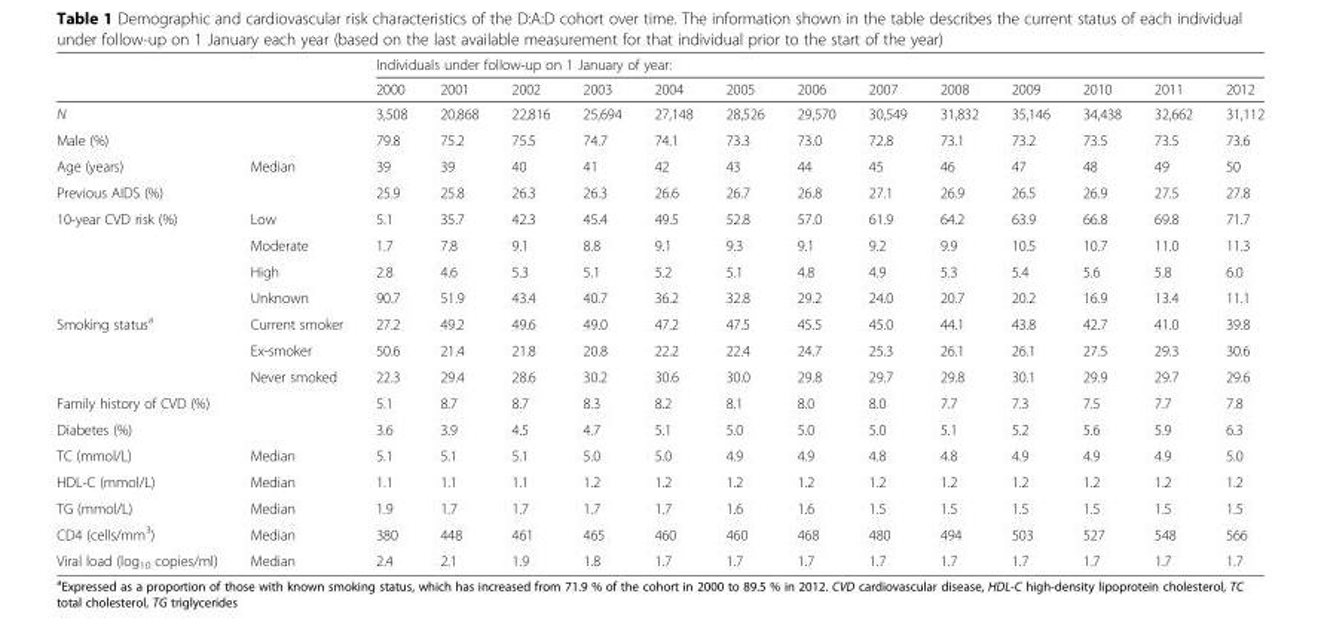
<table><thead><tr><td rowspan="2"></td><td rowspan="2"></td><td colspan="13">Individuals under follow-up on 1 January of year:</td></tr><tr><td>2000</td><td>2001</td><td>2002</td><td>2003</td><td>2004</td><td>2005</td><td>2006</td><td>2007</td><td>2008</td><td>2009</td><td>2010</td><td>2011</td><td>2012</td></tr></thead><tbody><tr><td>N</td><td></td><td>3,508</td><td>20,868</td><td>22,816</td><td>25,694</td><td>27,148</td><td>28,526</td><td>29,570</td><td>30,549</td><td>31,832</td><td>35,146</td><td>34,438</td><td>32,662</td><td>31,112</td></tr><tr><td>Male (%)</td><td></td><td>79.8</td><td>75.2</td><td>75.5</td><td>74.7</td><td>74.1</td><td>73.3</td><td>73.0</td><td>72.8</td><td>73.1</td><td>73.2</td><td>73.5</td><td>73.5</td><td>73.6</td></tr><tr><td>Age (years)</td><td>Median</td><td>39</td><td>39</td><td>40</td><td>41</td><td>42</td><td>43</td><td>44</td><td>45</td><td>46</td><td>47</td><td>48</td><td>49</td><td>50</td></tr><tr><td>Previous AIDS (%)</td><td></td><td>25.9</td><td>25.8</td><td>26.3</td><td>26.3</td><td>26.6</td><td>26.7</td><td>26.8</td><td>27.1</td><td>26.9</td><td>26.5</td><td>26.9</td><td>27.5</td><td>27.8</td></tr><tr><td rowspan="4">10-year CVD risk (%)</td><td>Low</td><td>5.1</td><td>35.7</td><td>42.3</td><td>45.4</td><td>49.5</td><td>52.8</td><td>57.0</td><td>61.9</td><td>64.2</td><td>63.9</td><td>66.8</td><td>69.8</td><td>71.7</td></tr><tr><td>Moderate</td><td>1.7</td><td>7.8</td><td>9.1</td><td>8.8</td><td>9.1</td><td>9.3</td><td>9.1</td><td>9.2</td><td>9.9</td><td>10.5</td><td>10.7</td><td>11.0</td><td>11.3</td></tr><tr><td>High</td><td>2.8</td><td>4.6</td><td>5.3</td><td>5.1</td><td>5.2</td><td>5.1</td><td>4.8</td><td>4.9</td><td>5.3</td><td>5.4</td><td>5.6</td><td>5.8</td><td>6.0</td></tr><tr><td>Unknown</td><td>90.7</td><td>51.9</td><td>43.4</td><td>40.7</td><td>36.2</td><td>32.8</td><td>29.2</td><td>24.0</td><td>20.7</td><td>20.2</td><td>16.9</td><td>13.4</td><td>11.1</td></tr><tr><td rowspan="3">Smoking status<sup>a</sup></td><td>Current smoker</td><td>27.2</td><td>49.2</td><td>49.6</td><td>49.0</td><td>47.2</td><td>47.5</td><td>45.5</td><td>45.0</td><td>44.1</td><td>43.8</td><td>42.7</td><td>41.0</td><td>39.8</td></tr><tr><td>Ex-smoker</td><td>50.6</td><td>21.4</td><td>21.8</td><td>20.8</td><td>22.2</td><td>22.4</td><td>24.7</td><td>25.3</td><td>26.1</td><td>26.1</td><td>27.5</td><td>29.3</td><td>30.6</td></tr><tr><td>Never smoked</td><td>22.3</td><td>29.4</td><td>28.6</td><td>30.2</td><td>30.6</td><td>30.0</td><td>29.8</td><td>29.7</td><td>29.8</td><td>30.1</td><td>29.9</td><td>29.7</td><td>29.6</td></tr><tr><td colspan="2">Family history of CVD (%)</td><td>5.1</td><td>8.7</td><td>8.7</td><td>8.3</td><td>8.2</td><td>8.1</td><td>8.0</td><td>8.0</td><td>7.7</td><td>7.3</td><td>7.5</td><td>7.7</td><td>7.8</td></tr><tr><td>Diabetes (%)</td><td></td><td>3.6</td><td>3.9</td><td>4.5</td><td>4.7</td><td>5.1</td><td>5.0</td><td>5.0</td><td>5.0</td><td>5.1</td><td>5.2</td><td>5.6</td><td>5.9</td><td>6.3</td></tr><tr><td>TC (mmol/L)</td><td>Median</td><td>5.1</td><td>5.1</td><td>5.1</td><td>5.0</td><td>5.0</td><td>4.9</td><td>4.9</td><td>4.8</td><td>4.8</td><td>4.9</td><td>4.9</td><td>4.9</td><td>5.0</td></tr><tr><td>HDL-C (mmol/L)</td><td>Median</td><td>1.1</td><td>1.1</td><td>1.1</td><td>1.2</td><td>1.2</td><td>1.2</td><td>1.2</td><td>1.2</td><td>1.2</td><td>1.2</td><td>1.2</td><td>1.2</td><td>1.2</td></tr><tr><td>TG (mmol/L)</td><td>Median</td><td>1.9</td><td>1.7</td><td>1.7</td><td>1.7</td><td>1.7</td><td>1.6</td><td>1.6</td><td>1.5</td><td>1.5</td><td>1.5</td><td>1.5</td><td>1.5</td><td>1.5</td></tr><tr><td>CD4 (cells/mm<sup>3</sup>)</td><td>Median</td><td>380</td><td>448</td><td>461</td><td>465</td><td>460</td><td>460</td><td>468</td><td>480</td><td>494</td><td>503</td><td>527</td><td>548</td><td>566</td></tr><tr><td>Viral load (log<sub>10</sub> copies/ml)</td><td>Median</td><td>2.4</td><td>2.1</td><td>1.9</td><td>1.8</td><td>1.7</td><td>1.7</td><td>1.7</td><td>1.7</td><td>1.7</td><td>1.7</td><td>1.7</td><td>1.7</td><td>1.7</td></tr></tbody></table>